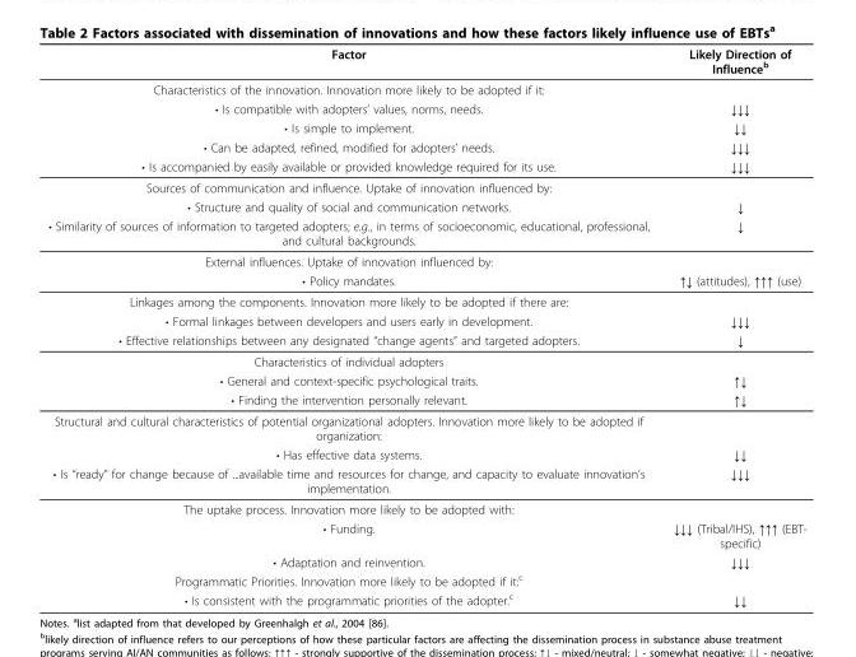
<table><thead><tr><td>Factor</td><td>Likely Direction of Influence<sup>b</sup></td></tr></thead><tbody><tr><td colspan="2">Characteristics of the innovation. Innovation more likely to be adopted if it:</td></tr><tr><td>• Is compatible with adopters’ values, norms, needs.</td><td>↓↓↓</td></tr><tr><td>• Is simple to implement.</td><td>↓↓</td></tr><tr><td>• Can be adapted, refined, modified for adopters’ needs.</td><td>↓↓↓</td></tr><tr><td>• Is accompanied by easily available or provided knowledge required for its use.</td><td>↓↓↓</td></tr><tr><td colspan="2">Sources of communication and influence. Uptake of innovation influenced by:</td></tr><tr><td>• Structure and quality of social and communication networks.</td><td>↓</td></tr><tr><td>• Similarity of sources of information to targeted adopters; e.g., in terms of socioeconomic, educational, professional, and cultural backgrounds.</td><td>↓</td></tr><tr><td colspan="2">External influences. Uptake of innovation influenced by:</td></tr><tr><td>• Policy mandates.</td><td>↑↓ (attitudes), ↑↑↑ (use)</td></tr><tr><td colspan="2">Linkages among the components. Innovation more likely to be adopted if there are:</td></tr><tr><td>• Formal linkages between developers and users early in development.</td><td>↓↓↓</td></tr><tr><td>• Effective relationships between any designated “change agents” and targeted adopters.</td><td>↓</td></tr><tr><td colspan="2">Characteristics of individual adopters</td></tr><tr><td>• General and context-specific psychological traits.</td><td>↑↓</td></tr><tr><td>• Finding the intervention personally relevant.</td><td>↑↓</td></tr><tr><td colspan="2">Structural and cultural characteristics of potential organizational adopters. Innovation more likely to be adopted if organization:</td></tr><tr><td>• Has effective data systems.</td><td>↓↓</td></tr><tr><td>• Is “ready” for change because of ...available time and resources for change, and capacity to evaluate innovation’s implementation.</td><td>↓↓↓</td></tr><tr><td colspan="2">The uptake process. Innovation more likely to be adopted with:</td></tr><tr><td>• Funding.</td><td>↓↓↓ (Tribal/IHS), ↑↑↑ (EBT- specific)</td></tr><tr><td>• Adaptation and reinvention.</td><td>↓↓↓</td></tr><tr><td colspan="2">Programmatic Priorities. Innovation more likely to be adopted if it:<sup>c</sup></td></tr><tr><td>• Is consistent with the programmatic priorities of the adopter.<sup>c</sup></td><td>↓↓</td></tr></tbody></table>